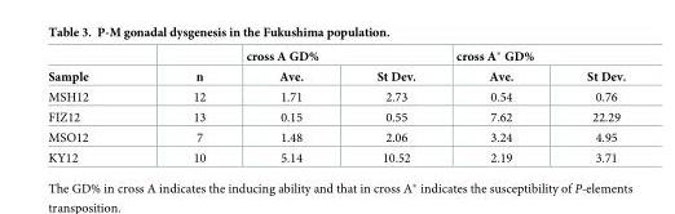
<table><thead><tr><td rowspan="2">Sample</td><td rowspan="2">n</td><td colspan="2">cross A GD%</td><td colspan="2">cross A* GD%</td></tr><tr><td>Ave.</td><td>St Dev.</td><td>Ave.</td><td>St Dev.</td></tr></thead><tbody><tr><td>MSH12</td><td>12</td><td>1.71</td><td>2.73</td><td>0.54</td><td>0.76</td></tr><tr><td>FIZ12</td><td>13</td><td>0.15</td><td>0.55</td><td>7.62</td><td>22.29</td></tr><tr><td>MSO12</td><td>7</td><td>1.48</td><td>2.06</td><td>3.24</td><td>4.95</td></tr><tr><td>KY12</td><td>10</td><td>5.14</td><td>10.52</td><td>2.19</td><td>3.71</td></tr></tbody></table>